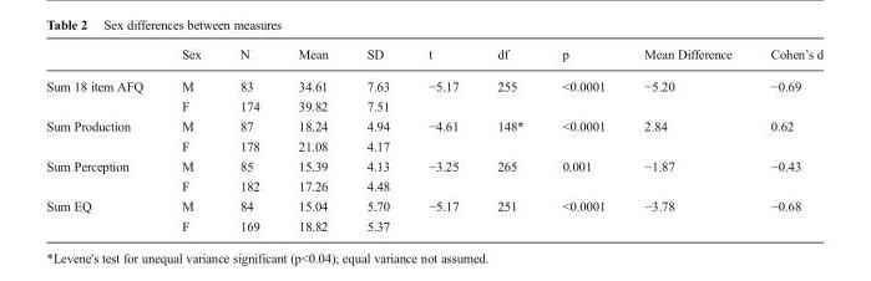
<table><thead><tr><td></td><td>Sex</td><td>N</td><td>Mean</td><td>SD</td><td>t</td><td>df</td><td>p</td><td>Mean Difference</td><td>Cohen’s d</td></tr></thead><tbody><tr><td rowspan="2">Sum 18 item AFQ</td><td>M</td><td>83</td><td>34.61</td><td>7.63</td><td>−5.17</td><td>255</td><td>&lt;0.0001</td><td>−5.20</td><td>−0.69</td></tr><tr><td>F</td><td>174</td><td>39.82</td><td>7.51</td><td></td><td></td><td></td><td></td><td></td></tr><tr><td rowspan="2">Sum Production</td><td>M</td><td>87</td><td>18.24</td><td>4.94</td><td>−4.61</td><td>148*</td><td>&lt;0.0001</td><td>2.84</td><td>0.62</td></tr><tr><td>F</td><td>178</td><td>21.08</td><td>4.17</td><td></td><td></td><td></td><td></td><td></td></tr><tr><td rowspan="2">Sum Perception</td><td>M</td><td>85</td><td>15.39</td><td>4.13</td><td>−3.25</td><td>265</td><td>0.001</td><td>−1.87</td><td>−0.43</td></tr><tr><td>F</td><td>182</td><td>17.26</td><td>4.48</td><td></td><td></td><td></td><td></td><td></td></tr><tr><td rowspan="2">Sum EQ</td><td>M</td><td>84</td><td>15.04</td><td>5.70</td><td>−5.17</td><td>251</td><td>&lt;0.0001</td><td>−3.78</td><td>−0.68</td></tr><tr><td>F</td><td>169</td><td>18.82</td><td>5.37</td><td></td><td></td><td></td><td></td><td></td></tr></tbody></table>